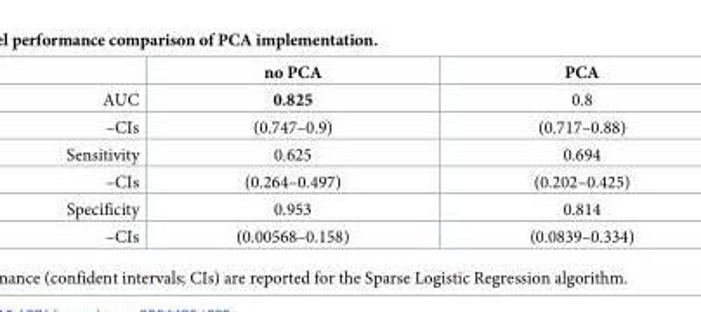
<table><thead><tr><td></td><td>no PCA</td><td>PCA</td></tr></thead><tbody><tr><td>AUC</td><td>0.825</td><td>0.8</td></tr><tr><td>–CIs</td><td>(0.747–0.9)</td><td>(0.717–0.88)</td></tr><tr><td>Sensitivity</td><td>0.625</td><td>0.694</td></tr><tr><td>–CIs</td><td>(0.264–0.497)</td><td>(0.202–0.425)</td></tr><tr><td>Specificity</td><td>0.953</td><td>0.814</td></tr><tr><td>–CIs</td><td>(0.00568–0.158)</td><td>(0.0839–0.334)</td></tr></tbody></table>